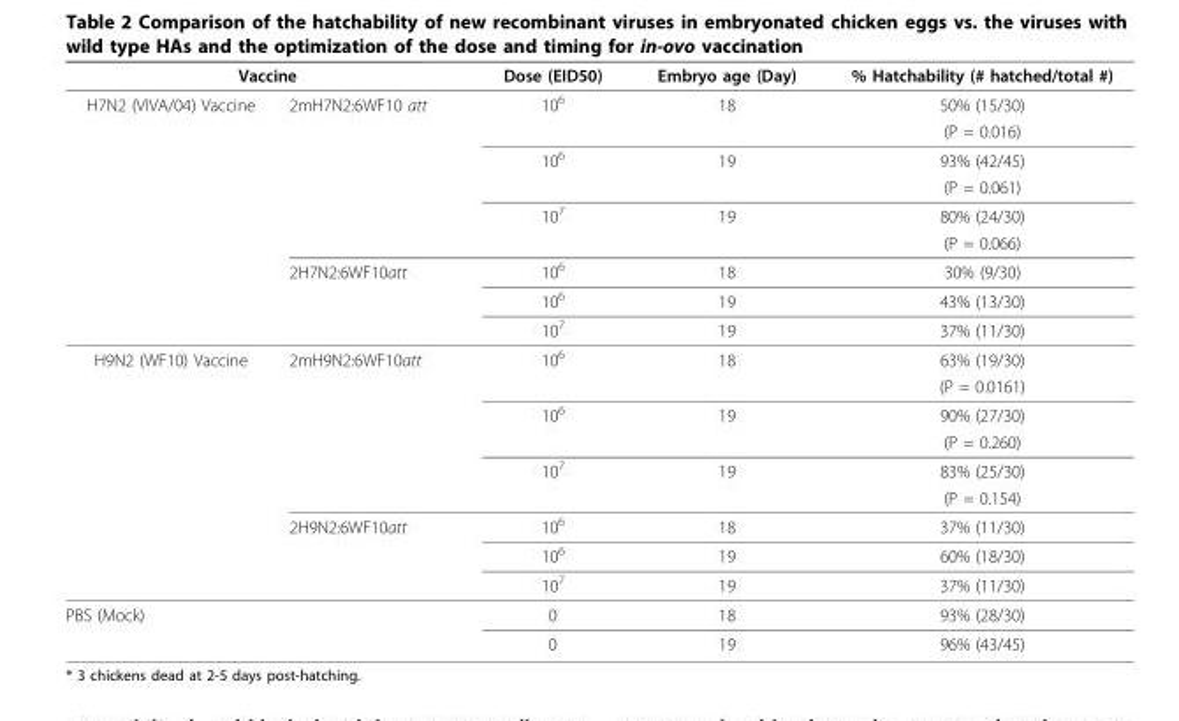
<table><thead><tr><td colspan="2">Vaccine</td><td rowspan="2">Dose (EID50) 10<sup>6</sup></td><td rowspan="2">Embryo age (Day) 18</td><td rowspan="2">% Hatchability (# hatched/total #) 50% (15/30)</td></tr><tr><td>H7N2 (VIVA/04) Vaccine</td><td>2mH7N2:6WF10 att</td></tr></thead><tbody><tr><td></td><td></td><td></td><td></td><td>(P = 0.016)</td></tr><tr><td></td><td></td><td>10<sup>6</sup></td><td>19</td><td>93% (42/45)</td></tr><tr><td></td><td></td><td></td><td></td><td>(P = 0.061)</td></tr><tr><td></td><td></td><td>10<sup>7</sup></td><td>19</td><td>80% (24/30)</td></tr><tr><td></td><td></td><td></td><td></td><td>(P = 0.066)</td></tr><tr><td></td><td>2H7N2:6WF10att</td><td>10<sup>6</sup></td><td>18</td><td>30% (9/30)</td></tr><tr><td></td><td></td><td>10<sup>6</sup></td><td>19</td><td>43% (13/30)</td></tr><tr><td></td><td></td><td>10<sup>7</sup></td><td>19</td><td>37% (11/30)</td></tr><tr><td rowspan="9">H9N2 (WF10) Vaccine</td><td>2mH9N2:6WF10att</td><td>10<sup>6</sup></td><td>18</td><td>63% (19/30)</td></tr><tr><td></td><td></td><td></td><td>(P = 0.0161)</td></tr><tr><td></td><td>10<sup>6</sup></td><td>19</td><td>90% (27/30)</td></tr><tr><td></td><td></td><td></td><td>(P = 0.260)</td></tr><tr><td></td><td>10<sup>7</sup></td><td>19</td><td>83% (25/30)</td></tr><tr><td></td><td></td><td></td><td>(P = 0.154)</td></tr><tr><td>2H9N2:6WF10att</td><td>10<sup>6</sup></td><td>18</td><td>37% (11/30)</td></tr><tr><td></td><td>10<sup>6</sup></td><td>19</td><td>60% (18/30)</td></tr><tr><td></td><td>10<sup>7</sup></td><td>19</td><td>37% (11/30)</td></tr><tr><td colspan="2">PBS (Mock)</td><td>0</td><td>18</td><td>93% (28/30)</td></tr><tr><td></td><td></td><td>0</td><td>19</td><td>96% (43/45)</td></tr></tbody></table>